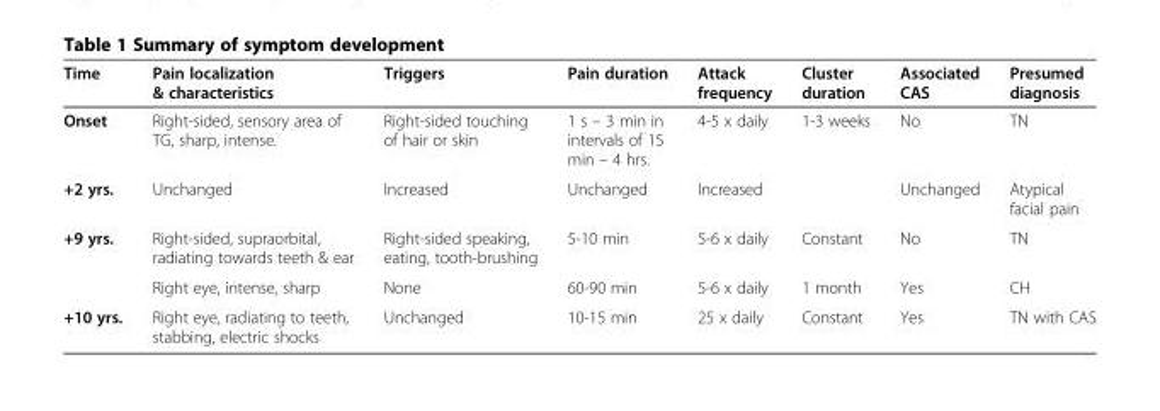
<table><thead><tr><td>Time</td><td>Pain localization &amp; characteristics</td><td>Triggers</td><td>Pain duration</td><td>Attack frequency</td><td>Cluster duration</td><td>Associated CAS</td><td>Presumed diagnosis</td></tr></thead><tbody><tr><td>Onset</td><td>Right-sided, sensory area of TG, sharp, intense.</td><td>Right-sided touching of hair or skin</td><td>1 s – 3 min in intervals of 15 min – 4 hrs.</td><td>4-5 x daily</td><td>1-3 weeks</td><td>No</td><td>TN</td></tr><tr><td>+2 yrs.</td><td>Unchanged</td><td>Increased</td><td>Unchanged</td><td>Increased</td><td></td><td>Unchanged</td><td>Atypical facial pain</td></tr><tr><td rowspan="2">+9 yrs.</td><td>Right-sided, supraorbital, radiating towards teeth &amp; ear</td><td>Right-sided speaking, eating, tooth-brushing</td><td>5-10 min</td><td>5-6 x daily</td><td>Constant</td><td>No</td><td>TN</td></tr><tr><td>Right eye, intense, sharp</td><td>None</td><td>60-90 min</td><td>5-6 x daily</td><td>1 month</td><td>Yes</td><td>CH</td></tr><tr><td>+10 yrs.</td><td>Right eye, radiating to teeth, stabbing, electric shocks</td><td>Unchanged</td><td>10-15 min</td><td>25 x daily</td><td>Constant</td><td>Yes</td><td>TN with CAS</td></tr></tbody></table>